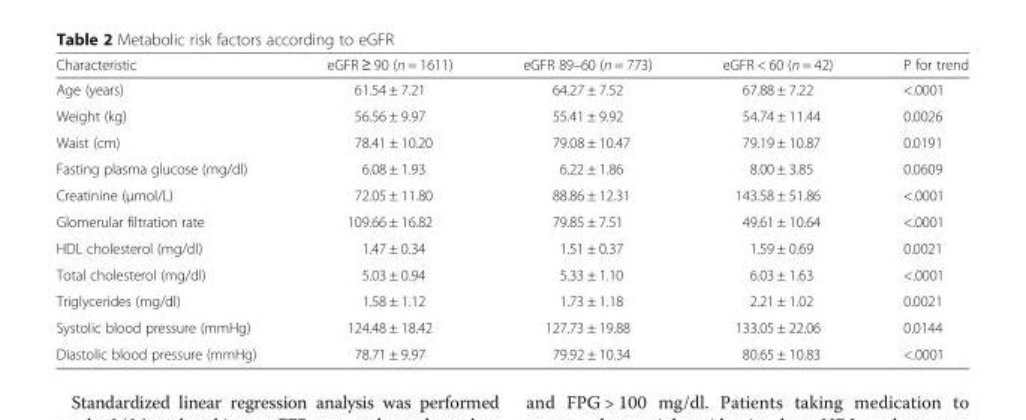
<table><thead><tr><td>Characteristic</td><td>eGFR ≥ 90 (n = 1611)</td><td>eGFR 89–60 (n = 773)</td><td>eGFR &lt; 60 (n = 42)</td><td>P for trend</td></tr></thead><tbody><tr><td>Age (years)</td><td>61.54 ± 7.21</td><td>64.27 ± 7.52</td><td>67.88 ± 7.22</td><td>&lt;.0001</td></tr><tr><td>Weight (kg)</td><td>56.56 ± 9.97</td><td>55.41 ± 9.92</td><td>54.74 ± 11.44</td><td>0.0026</td></tr><tr><td>Waist (cm)</td><td>78.41 ± 10.20</td><td>79.08 ± 10.47</td><td>79.19 ± 10.87</td><td>0.0191</td></tr><tr><td>Fasting plasma glucose (mg/dl)</td><td>6.08 ± 1.93</td><td>6.22 ± 1.86</td><td>8.00 ± 3.85</td><td>0.0609</td></tr><tr><td>Creatinine (μmol/L)</td><td>72.05 ± 11.80</td><td>88.86 ± 12.31</td><td>143.58 ± 51.86</td><td>&lt;.0001</td></tr><tr><td>Glomerular filtration rate</td><td>109.66 ± 16.82</td><td>79.85 ± 7.51</td><td>49.61 ± 10.64</td><td>&lt;.0001</td></tr><tr><td>HDL cholesterol (mg/dl)</td><td>1.47 ± 0.34</td><td>1.51 ± 0.37</td><td>1.59 ± 0.69</td><td>0.0021</td></tr><tr><td>Total cholesterol (mg/dl)</td><td>5.03 ± 0.94</td><td>5.33 ± 1.10</td><td>6.03 ± 1.63</td><td>&lt;.0001</td></tr><tr><td>Triglycerides (mg/dl)</td><td>1.58 ± 1.12</td><td>1.73 ± 1.18</td><td>2.21 ± 1.02</td><td>0.0021</td></tr><tr><td>Systolic blood pressure (mmHg)</td><td>124.48 ± 18.42</td><td>127.73 ± 19.88</td><td>133.05 ± 22.06</td><td>0.0144</td></tr><tr><td>Diastolic blood pressure (mmHg)</td><td>78.71 ± 9.97</td><td>79.92 ± 10.34</td><td>80.65 ± 10.83</td><td>&lt;.0001</td></tr></tbody></table>